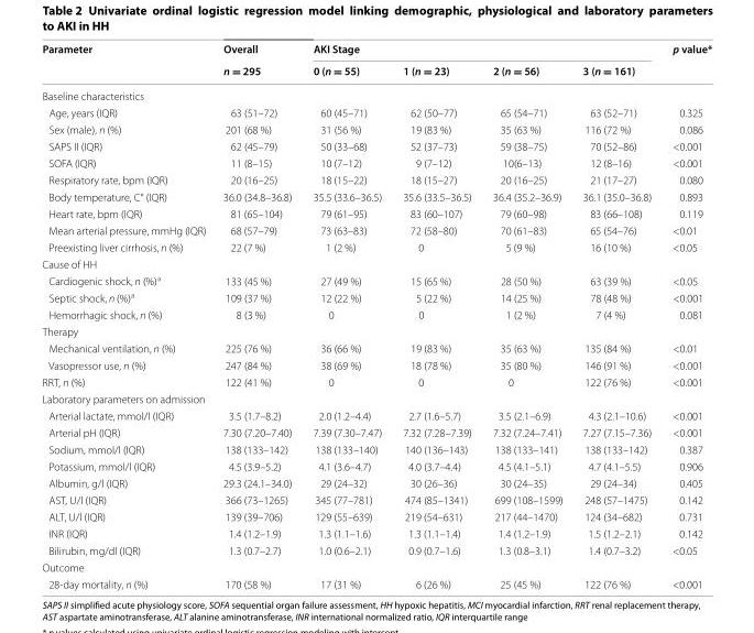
<table><thead><tr><td rowspan="2">Parameter</td><td rowspan="2">Overall n = 295</td><td colspan="4">AKI Stage</td><td rowspan="2">p value*</td></tr><tr><td>0 (n = 55)</td><td>1 (n = 23)</td><td>2 (n = 56)</td><td>3 (n = 161)</td></tr></thead><tbody><tr><td colspan="7">Baseline characteristics</td></tr><tr><td>Age, years (IQR)</td><td>63 (51–72)</td><td>60 (45–71)</td><td>62 (50–77)</td><td>65 (54–71)</td><td>63 (52–71)</td><td>0.325</td></tr><tr><td>Sex (male), n (%)</td><td>201 (68 %)</td><td>31 (56 %)</td><td>19 (83 %)</td><td>35 (63 %)</td><td>116 (72 %)</td><td>0.086</td></tr><tr><td>SAPS II (IQR)</td><td>62 (45–79)</td><td>50 (33–68)</td><td>52 (37–73)</td><td>59 (38–75)</td><td>70 (52–86)</td><td>&lt;0.001</td></tr><tr><td>SOFA (IQR)</td><td>11 (8–15)</td><td>10 (7–12)</td><td>9 (7–12)</td><td>10(6–13)</td><td>12 (8–16)</td><td>&lt;0.001</td></tr><tr><td>Respiratory rate, bpm (IQR)</td><td>20 (16–25)</td><td>18 (15–22)</td><td>18 (15–27)</td><td>20 (16–25)</td><td>21 (17–27)</td><td>0.080</td></tr><tr><td>Body temperature, C° (IQR)</td><td>36.0 (34.8–36.8)</td><td>35.5 (33.6–36.5)</td><td>35.6 (33.5–36.5)</td><td>36.4 (35.2–36.9)</td><td>36.1 (35.0–36.8)</td><td>0.893</td></tr><tr><td>Heart rate, bpm (IQR)</td><td>81 (65–104)</td><td>79 (61–95)</td><td>83 (60–107)</td><td>79 (60–98)</td><td>83 (66–108)</td><td>0.119</td></tr><tr><td>Mean arterial pressure, mmHg (IQR)</td><td>68 (57–79)</td><td>73 (63–83)</td><td>72 (58–80)</td><td>70 (61–83)</td><td>65 (54–76)</td><td>&lt;0.01</td></tr><tr><td>Preexisting liver cirrhosis, n (%)</td><td>22 (7 %)</td><td>1 (2 %)</td><td>0</td><td>5 (9 %)</td><td>16 (10 %)</td><td>&lt;0.05</td></tr><tr><td colspan="7">Cause of HH</td></tr><tr><td>Cardiogenic shock, n (%)<sup>a</sup></td><td>133 (45 %)</td><td>27 (49 %)</td><td>15 (65 %)</td><td>28 (50 %)</td><td>63 (39 %)</td><td>&lt;0.05</td></tr><tr><td>Septic shock, n (%)<sup>a</sup></td><td>109 (37 %)</td><td>12 (22 %)</td><td>5 (22 %)</td><td>14 (25 %)</td><td>78 (48 %)</td><td>&lt;0.001</td></tr><tr><td>Hemorrhagic shock, n (%)</td><td>8 (3 %)</td><td>0</td><td>0</td><td>1 (2 %)</td><td>7 (4 %)</td><td>0.081</td></tr><tr><td colspan="7">Therapy</td></tr><tr><td>Mechanical ventilation, n (%)</td><td>225 (76 %)</td><td>36 (66 %)</td><td>19 (83 %)</td><td>35 (63 %)</td><td>135 (84 %)</td><td>&lt;0.01</td></tr><tr><td>Vasopressor use, n (%)</td><td>247 (84 %)</td><td>38 (69 %)</td><td>18 (78 %)</td><td>35 (80 %)</td><td>146 (91 %)</td><td>&lt;0.001</td></tr><tr><td>RRT, n (%)</td><td>122 (41 %)</td><td>0</td><td>0</td><td>0</td><td>122 (76 %)</td><td>&lt;0.001</td></tr><tr><td colspan="7">Laboratory parameters on admission</td></tr><tr><td>Arterial lactate, mmol/l (IQR)</td><td>3.5 (1.7–8.2)</td><td>2.0 (1.2–4.4)</td><td>2.7 (1.6–5.7)</td><td>3.5 (2.1–6.9)</td><td>4.3 (2.1–10.6)</td><td>&lt;0.001</td></tr><tr><td>Arterial pH (IQR)</td><td>7.30 (7.20–7.40)</td><td>7.39 (7.30–7.47)</td><td>7.32 (7.28–7.39)</td><td>7.32 (7.24–7.41)</td><td>7.27 (7.15–7.36)</td><td>&lt;0.001</td></tr><tr><td>Sodium, mmol/l (IQR)</td><td>138 (133–142)</td><td>138 (133–140)</td><td>140 (136–143)</td><td>138 (133–141)</td><td>138 (133–142)</td><td>0.387</td></tr><tr><td>Potassium, mmol/l (IQR)</td><td>4.5 (3.9–5.2)</td><td>4.1 (3.6–4.7)</td><td>4.0 (3.7–4.4)</td><td>4.5 (4.1–5.1)</td><td>4.7 (4.1–5.5)</td><td>0.906</td></tr><tr><td>Albumin, g/l (IQR)</td><td>29.3 (24.1–34.0)</td><td>29 (24–32)</td><td>30 (26–36)</td><td>30 (24–35)</td><td>29 (24–34)</td><td>0.405</td></tr><tr><td>AST, U/l (IQR)</td><td>366 (73–1265)</td><td>345 (77–781)</td><td>474 (85–1341)</td><td>699 (108–1599)</td><td>248 (57–1475)</td><td>0.142</td></tr><tr><td>ALT, U/l (IQR)</td><td>139 (39–706)</td><td>129 (55–639)</td><td>219 (54–631)</td><td>217 (44–1470)</td><td>124 (34–682)</td><td>0.731</td></tr><tr><td>INR (IQR)</td><td>1.4 (1.2–1.9)</td><td>1.3 (1.1–1.6)</td><td>1.3 (1.1–1.4)</td><td>1.4 (1.2–1.9)</td><td>1.5 (1.2–2.1)</td><td>0.142</td></tr><tr><td>Bilirubin, mg/dl (IQR)</td><td>1.3 (0.7–2.7)</td><td>1.0 (0.6–2.1)</td><td>0.9 (0.7–1.6)</td><td>1.3 (0.8–3.1)</td><td>1.4 (0.7–3.2)</td><td>&lt;0.05</td></tr><tr><td colspan="7">Outcome</td></tr><tr><td>28-day mortality, n (%)</td><td>170 (58 %)</td><td>17 (31 %)</td><td>6 (26 %)</td><td>25 (45 %)</td><td>122 (76 %)</td><td>&lt;0.001</td></tr></tbody></table>